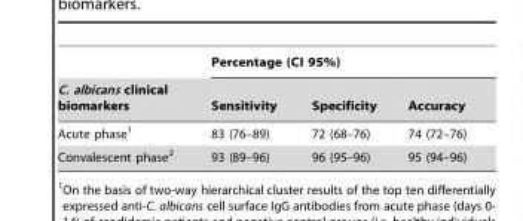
<table><thead><tr><td rowspan="2">C. albicans clinical biomarkers</td><td colspan="3">Percentage (CI 95%)</td></tr><tr><td>Sensitivity</td><td>Specificity</td><td>Accuracy</td></tr></thead><tbody><tr><td>Acute phase<sup>1</sup></td><td>83 (76–89)</td><td>72 (68–76)</td><td>74 (72–76)</td></tr><tr><td>Convalescent phase<sup>2</sup></td><td>93 (89–96)</td><td>96 (95–96)</td><td>95 (94–96)</td></tr></tbody></table>